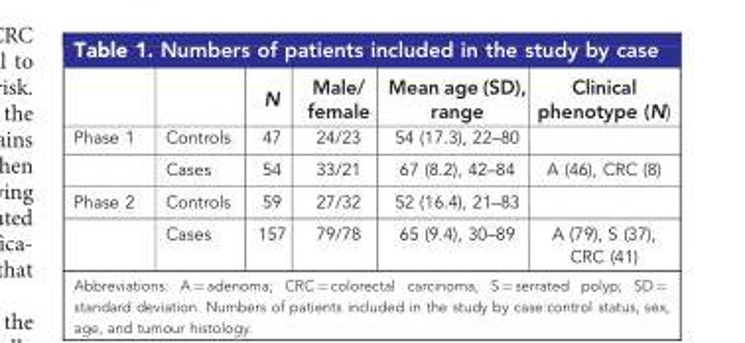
<table><thead><tr><td></td><td></td><td>N</td><td>Male/ female</td><td>Mean age (SD), range</td><td>Clinical phenotype (N)</td></tr></thead><tbody><tr><td rowspan="2">Phase 1</td><td>Controls</td><td>47</td><td>24/23</td><td>54 (17.3), 22–80</td><td></td></tr><tr><td>Cases</td><td>54</td><td>33/21</td><td>67 (8.2), 42–84</td><td>A (46), CRC (8)</td></tr><tr><td rowspan="2">Phase 2</td><td>Controls</td><td>59</td><td>27/32</td><td>52 (16.4), 21–83</td><td></td></tr><tr><td>Cases</td><td>157</td><td>79/78</td><td>65 (9.4), 30–89</td><td>A (79), S (37), CRC (41)</td></tr></tbody></table>